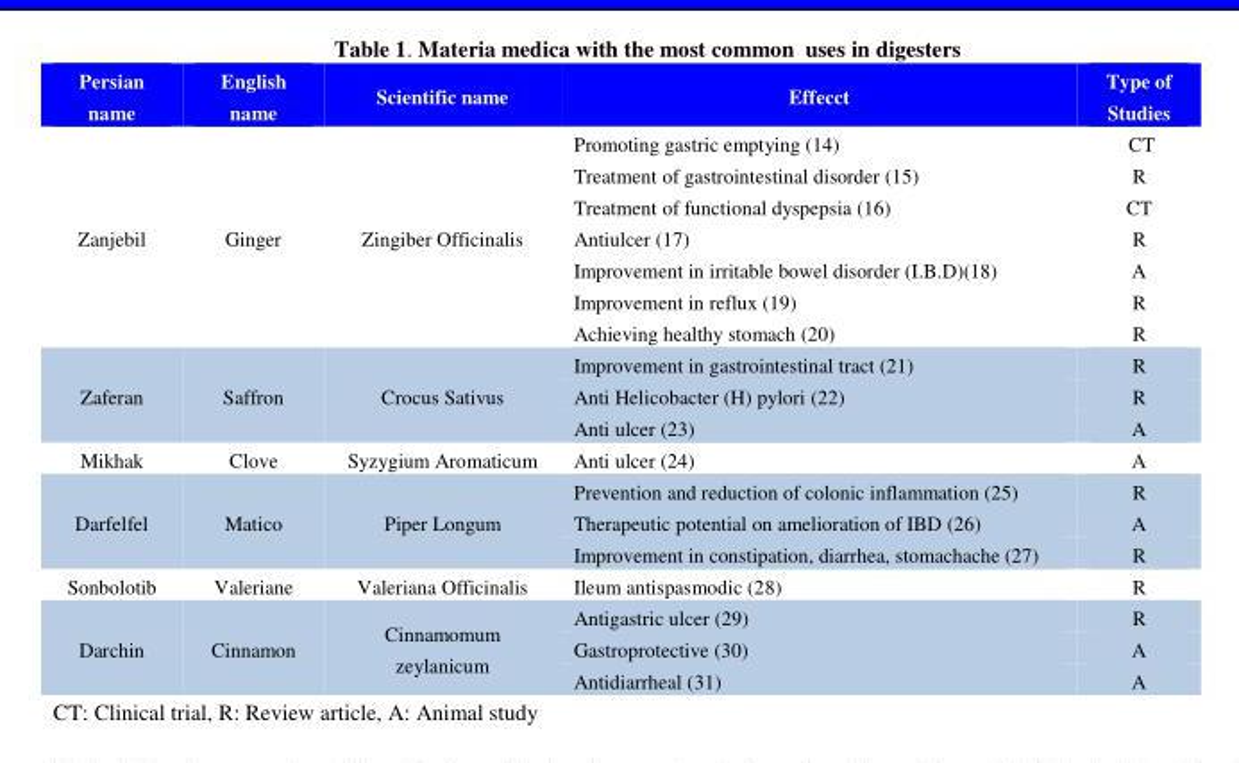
<table><thead><tr><td>Type of Studies</td><td>Effecct</td><td>Scientific name</td><td>English name</td><td>Persian name</td></tr></thead><tbody><tr><td>CT</td><td>Promoting gastric emptying (14)</td><td rowspan="7">Zingiber Officinalis</td><td rowspan="7">Ginger</td><td rowspan="7">Zanjebil</td></tr><tr><td>R</td><td>Treatment of gastrointestinal disorder (15)</td></tr><tr><td>CT</td><td>Treatment of functional dyspepsia (16)</td></tr><tr><td>R</td><td>Antiulcer (17)</td></tr><tr><td>A</td><td>Improvement in irritable bowel disorder (I.B.D)(18)</td></tr><tr><td>R</td><td>Improvement in reflux (19)</td></tr><tr><td>R</td><td>Achieving healthy stomach (20)</td></tr><tr><td>R</td><td>Improvement in gastrointestinal tract (21)</td><td rowspan="3">Crocus Sativus</td><td rowspan="3">Saffron</td><td rowspan="3">Zaferan</td></tr><tr><td>R</td><td>Anti Helicobacter (H) pylori (22)</td></tr><tr><td>A</td><td>Anti ulcer (23)</td></tr><tr><td>A</td><td>Anti ulcer (24)</td><td>Syzygium Aromaticum</td><td>Clove</td><td>Mikhak</td></tr><tr><td>R</td><td>Prevention and reduction of colonic inflammation (25)</td><td rowspan="3">Piper Longum</td><td rowspan="3">Matico</td><td rowspan="3">Darfelfel</td></tr><tr><td>A</td><td>Therapeutic potential on amelioration of IBD (26)</td></tr><tr><td>R</td><td>Improvement in constipation, diarrhea, stomachache (27)</td></tr><tr><td>R</td><td>Ileum antispasmodic (28)</td><td>Valeriana Officinalis</td><td>Valeriane</td><td>Sonbolotib</td></tr><tr><td>R</td><td>Antigastric ulcer (29)</td><td rowspan="3">Cinnamomum zeylanicum</td><td rowspan="3">Cinnamon</td><td rowspan="3">Darchin</td></tr><tr><td>A</td><td>Gastroprotective (30)</td></tr><tr><td>A</td><td>Antidiarrheal (31)</td></tr></tbody></table>